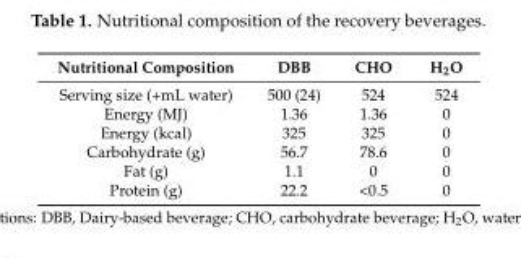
<table><thead><tr><td>Nutritional Composition</td><td>DBB</td><td>CHO</td><td>H<sub>2</sub>O</td></tr></thead><tbody><tr><td>Serving size (+mL water)</td><td>500 (24)</td><td>524</td><td>524</td></tr><tr><td>Energy (MJ)</td><td>1.36</td><td>1.36</td><td>0</td></tr><tr><td>Energy (kcal)</td><td>325</td><td>325</td><td>0</td></tr><tr><td>Carbohydrate (g)</td><td>56.7</td><td>78.6</td><td>0</td></tr><tr><td>Fat (g)</td><td>1.1</td><td>0</td><td>0</td></tr><tr><td>Protein (g)</td><td>22.2</td><td>&lt;0.5</td><td>0</td></tr></tbody></table>